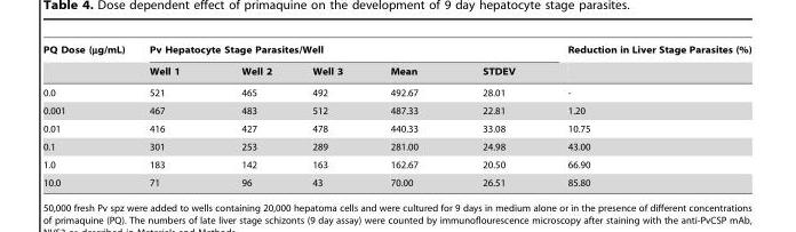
<table><thead><tr><td rowspan="2">PQ Dose (µg/mL)</td><td colspan="5">Pv Hepatocyte Stage Parasites/Well</td><td rowspan="2">Reduction in Liver Stage Parasites (%)</td></tr><tr><td>Well 1</td><td>Well 2</td><td>Well 3</td><td>Mean</td><td>STDEV</td></tr></thead><tbody><tr><td>0.0</td><td>521</td><td>465</td><td>492</td><td>492.67</td><td>28.01</td><td>-</td></tr><tr><td>0.001</td><td>467</td><td>483</td><td>512</td><td>487.33</td><td>22.81</td><td>1.20</td></tr><tr><td>0.01</td><td>416</td><td>427</td><td>478</td><td>440.33</td><td>33.08</td><td>10.75</td></tr><tr><td>0.1</td><td>301</td><td>253</td><td>289</td><td>281.00</td><td>24.98</td><td>43.00</td></tr><tr><td>1.0</td><td>183</td><td>142</td><td>163</td><td>162.67</td><td>20.50</td><td>66.90</td></tr><tr><td>10.0</td><td>71</td><td>96</td><td>43</td><td>70.00</td><td>26.51</td><td>85.80</td></tr></tbody></table>